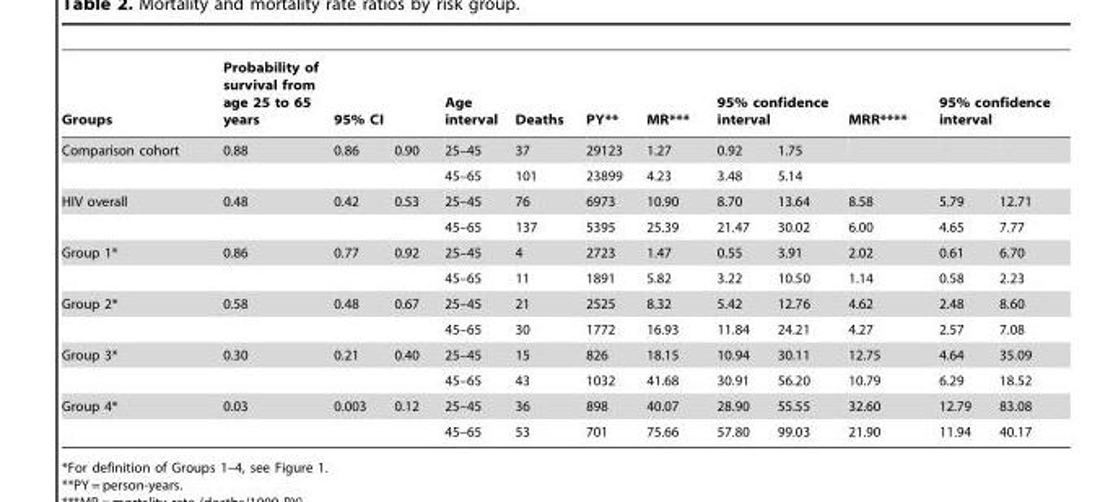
<table><thead><tr><td rowspan="2">Groups Comparison cohort</td><td rowspan="2">Probability of survival from age 25 to 65 years 0.88</td><td colspan="2">95% CI</td><td rowspan="2">Age interval 25–45</td><td rowspan="2">Deaths 37</td><td rowspan="2">PY** 29123</td><td rowspan="2">MR*** 1.27</td><td colspan="2">95% confidence interval</td><td rowspan="2">MRR****</td><td colspan="2">95% confidence interval</td></tr><tr><td>0.86</td><td>0.90</td><td>0.92</td><td>1.75</td><td></td><td></td></tr></thead><tbody><tr><td></td><td></td><td></td><td></td><td>45–65</td><td>101</td><td>23899</td><td>4.23</td><td>3.48</td><td>5.14</td><td></td><td></td><td></td></tr><tr><td rowspan="2">HIV overall</td><td>0.48</td><td>0.42</td><td>0.53</td><td>25–45</td><td>76</td><td>6973</td><td>10.90</td><td>8.70</td><td>13.64</td><td>8.58</td><td>5.79</td><td>12.71</td></tr><tr><td></td><td></td><td></td><td>45–65</td><td>137</td><td>5395</td><td>25.39</td><td>21.47</td><td>30.02</td><td>6.00</td><td>4.65</td><td>7.77</td></tr><tr><td rowspan="2">Group 1*</td><td>0.86</td><td>0.77</td><td>0.92</td><td>25–45</td><td>4</td><td>2723</td><td>1.47</td><td>0.55</td><td>3.91</td><td>2.02</td><td>0.61</td><td>6.70</td></tr><tr><td></td><td></td><td></td><td>45–65</td><td>11</td><td>1891</td><td>5.82</td><td>3.22</td><td>10.50</td><td>1.14</td><td>0.58</td><td>2.23</td></tr><tr><td rowspan="2">Group 2*</td><td>0.58</td><td>0.48</td><td>0.67</td><td>25–45</td><td>21</td><td>2525</td><td>8.32</td><td>5.42</td><td>12.76</td><td>4.62</td><td>2.48</td><td>8.60</td></tr><tr><td></td><td></td><td></td><td>45–65</td><td>30</td><td>1772</td><td>16.93</td><td>11.84</td><td>24.21</td><td>4.27</td><td>2.57</td><td>7.08</td></tr><tr><td rowspan="2">Group 3*</td><td>0.30</td><td>0.21</td><td>0.40</td><td>25–45</td><td>15</td><td>826</td><td>18.15</td><td>10.94</td><td>30.11</td><td>12.75</td><td>4.64</td><td>35.09</td></tr><tr><td></td><td></td><td></td><td>45–65</td><td>43</td><td>1032</td><td>41.68</td><td>30.91</td><td>56.20</td><td>10.79</td><td>6.29</td><td>18.52</td></tr><tr><td rowspan="2">Group 4*</td><td>0.03</td><td>0.003</td><td>0.12</td><td>25–45</td><td>36</td><td>898</td><td>40.07</td><td>28.90</td><td>55.55</td><td>32.60</td><td>12.79</td><td>83.08</td></tr><tr><td></td><td></td><td></td><td>45–65</td><td>53</td><td>701</td><td>75.66</td><td>57.80</td><td>99.03</td><td>21.90</td><td>11.94</td><td>40.17</td></tr></tbody></table>